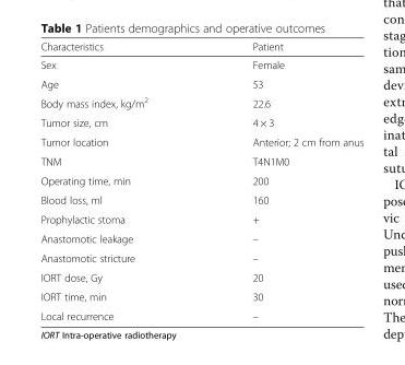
<table><thead><tr><td>Characteristics</td><td>Patient</td></tr></thead><tbody><tr><td>Sex</td><td>Female</td></tr><tr><td>Age</td><td>53</td></tr><tr><td>Body mass index, kg/m<sup>2</sup></td><td>22.6</td></tr><tr><td>Tumor size, cm</td><td>4 × 3</td></tr><tr><td>Tumor location</td><td>Anterior; 2 cm from anus</td></tr><tr><td>TNM</td><td>T4N1M0</td></tr><tr><td>Operating time, min</td><td>200</td></tr><tr><td>Blood loss, ml</td><td>160</td></tr><tr><td>Prophylactic stoma</td><td>+</td></tr><tr><td>Anastomotic leakage</td><td>–</td></tr><tr><td>Anastomotic stricture</td><td>–</td></tr><tr><td>IORT dose, Gy</td><td>20</td></tr><tr><td>IORT time, min</td><td>30</td></tr><tr><td>Local recurrence</td><td>–</td></tr></tbody></table>